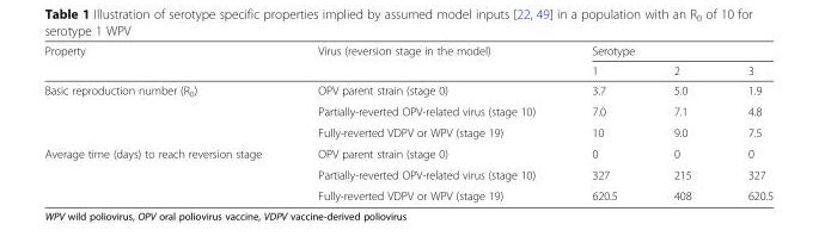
<table><thead><tr><td rowspan="2">Property</td><td rowspan="2">Virus (reversion stage in the model)</td><td colspan="3">Serotype</td></tr><tr><td>1</td><td>2</td><td>3</td></tr></thead><tbody><tr><td rowspan="3">Basic reproduction number (R<sub>0</sub>)</td><td>OPV parent strain (stage 0)</td><td>3.7</td><td>5.0</td><td>1.9</td></tr><tr><td>Partially-reverted OPV-related virus (stage 10)</td><td>7.0</td><td>7.1</td><td>4.8</td></tr><tr><td>Fully-reverted VDPV or WPV (stage 19)</td><td>10</td><td>9.0</td><td>7.5</td></tr><tr><td rowspan="3">Average time (days) to reach reversion stage</td><td>OPV parent strain (stage 0)</td><td>0</td><td>0</td><td>0</td></tr><tr><td>Partially-reverted OPV-related virus (stage 10)</td><td>327</td><td>215</td><td>327</td></tr><tr><td>Fully-reverted VDPV or WPV (stage 19)</td><td>620.5</td><td>408</td><td>620.5</td></tr></tbody></table>